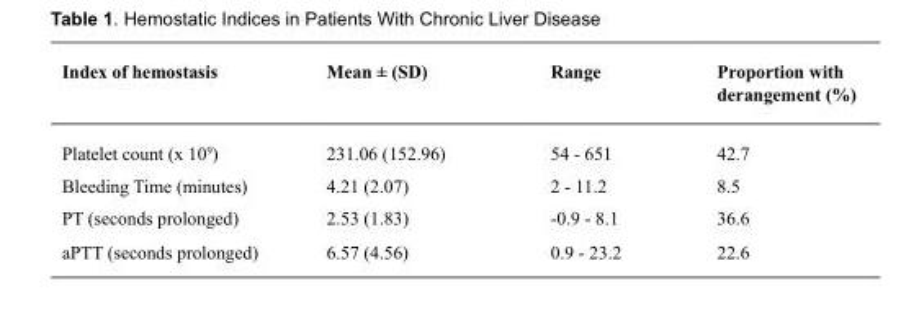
<table><thead><tr><td>Index of hemostasis</td><td>Mean ± (SD)</td><td>Range</td><td>Proportion with derangement (%)</td></tr></thead><tbody><tr><td>Platelet count (x 10<sup>9</sup>)</td><td>231.06 (152.96)</td><td>54 - 651</td><td>42.7</td></tr><tr><td>Bleeding Time (minutes)</td><td>4.21 (2.07)</td><td>2 - 11.2</td><td>8.5</td></tr><tr><td>PT (seconds prolonged)</td><td>2.53 (1.83)</td><td>-0.9 - 8.1</td><td>36.6</td></tr><tr><td>aPTT (seconds prolonged)</td><td>6.57 (4.56)</td><td>0.9 - 23.2</td><td>22.6</td></tr></tbody></table>